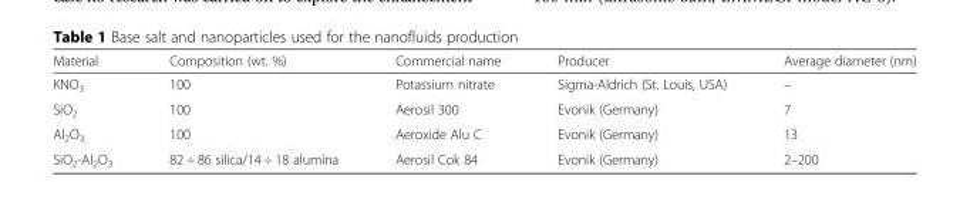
<table><thead><tr><td>Material</td><td>Composition (wt. %)</td><td>Commercial name</td><td>Producer</td><td>Average diameter (nm)</td></tr></thead><tbody><tr><td>KNO<sub>3</sub></td><td>100</td><td>Potassium nitrate</td><td>Sigma-Aldrich (St. Louis, USA)</td><td>–</td></tr><tr><td>SiO<sub>2</sub></td><td>100</td><td>Aerosil 300</td><td>Evonik (Germany)</td><td>7</td></tr><tr><td>Al<sub>2</sub>O<sub>3</sub></td><td>100</td><td>Aeroxide Alu C</td><td>Evonik (Germany)</td><td>13</td></tr><tr><td>SiO<sub>2</sub>-Al<sub>2</sub>O<sub>3</sub></td><td>82 ÷ 86 silica/14 ÷ 18 alumina</td><td>Aerosil Cok 84</td><td>Evonik (Germany)</td><td>2–200</td></tr></tbody></table>